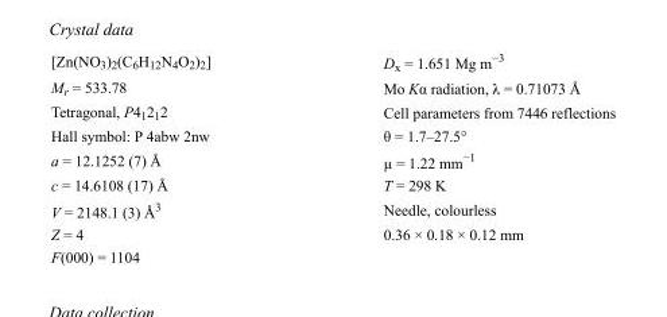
<table><tbody><tr><td>[Zn(NO<sub>3</sub>)<sub>2</sub>(C<sub>6</sub>H<sub>12</sub>N<sub>4</sub>O<sub>2</sub>)<sub>2</sub>]</td><td>D<sub>x</sub> = 1.651 Mg m<sup>−3</sup></td></tr><tr><td>M<sub>r</sub> = 533.78</td><td>Mo Kα radiation, λ = 0.71073 Å</td></tr><tr><td>Tetragonal, P4<sub>1</sub>2<sub>1</sub>2</td><td>Cell parameters from 7446 reflections</td></tr><tr><td>Hall symbol: P 4abw 2nw</td><td>θ = 1.7–27.5°</td></tr><tr><td>a = 12.1252 (7) Å</td><td>µ = 1.22 mm<sup>−1</sup></td></tr><tr><td>c = 14.6108 (17) Å</td><td>T = 298 K</td></tr><tr><td>V = 2148.1 (3) Å<sup>3</sup></td><td>Needle, colourless</td></tr><tr><td>Z = 4</td><td>0.36 × 0.18 × 0.12 mm</td></tr><tr><td>F(000) = 1104</td><td></td></tr></tbody></table>